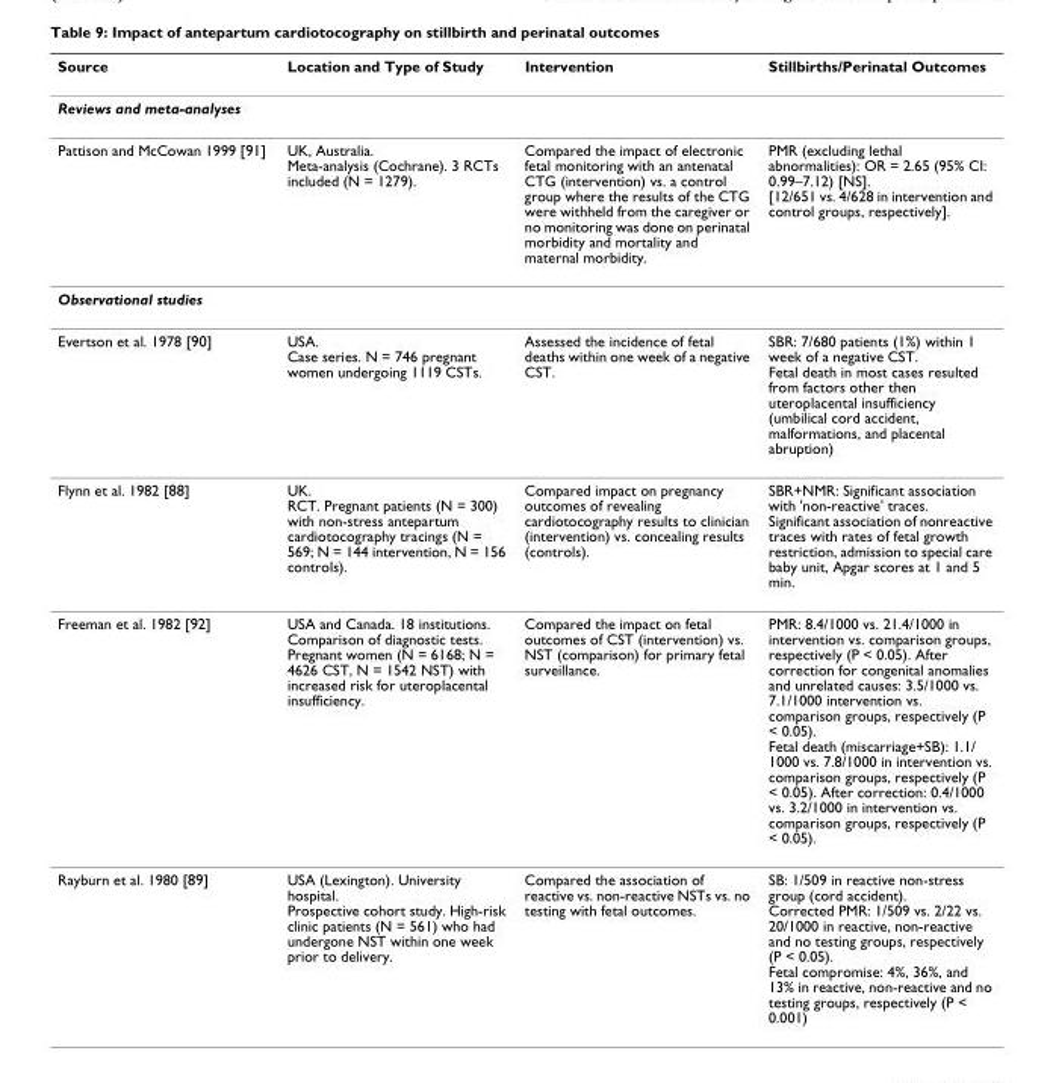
<table><thead><tr><td>Source</td><td>Location and Type of Study</td><td>Intervention</td><td>Stillbirths/Perinatal Outcomes</td></tr></thead><tbody><tr><td colspan="4">Reviews and meta-analyses</td></tr><tr><td>Pattison and McCowan 1999 [91]</td><td>UK, Australia. Meta-analysis (Cochrane). 3 RCTs included (N = 1279).</td><td>Compared the impact of electronic fetal monitoring with an antenatal CTG (intervention) vs. a control group where the results of the CTG were withheld from the caregiver or no monitoring was done on perinatal morbidity and mortality and maternal morbidity.</td><td>PMR (excluding lethal abnormalities): OR = 2.65 (95% CI: 0.99–7.12) [NS]. [12/651 vs. 4/628 in intervention and control groups, respectively].</td></tr><tr><td colspan="4">Observational studies</td></tr><tr><td>Evertson et al. 1978 [90]</td><td>USA. Case series. N = 746 pregnant women undergoing 1119 CSTs.</td><td>Assessed the incidence of fetal deaths within one week of a negative CST.</td><td>SBR: 7/680 patients (1%) within 1 week of a negative CST. Fetal death in most cases resulted from factors other then uteroplacental insufficiency (umbilical cord accident, malformations, and placental abruption)</td></tr><tr><td>Flynn et al. 1982 [88]</td><td>UK. RCT. Pregnant patients (N = 300) with non-stress antepartum cardiotocography tracings (N = 569; N = 144 intervention, N = 156 controls).</td><td>Compared impact on pregnancy outcomes of revealing cardiotocography results to clinician (intervention) vs. concealing results (controls).</td><td>SBR+NMR: Significant association with &#x27;non-reactive&#x27; traces. Significant association of nonreactive traces with rates of fetal growth restriction, admission to special care baby unit, Apgar scores at 1 and 5 min.</td></tr><tr><td>Freeman et al. 1982 [92]</td><td>USA and Canada. 18 institutions. Comparison of diagnostic tests. Pregnant women (N = 6168; N = 4626 CST, N = 1542 NST) with increased risk for uteroplacental insufficiency.</td><td>Compared the impact on fetal outcomes of CST (intervention) vs. NST (comparison) for primary fetal surveillance.</td><td>PMR: 8.4/1000 vs. 21.4/1000 in intervention vs. comparison groups, respectively (P &lt; 0.05). After correction for congenital anomalies and unrelated causes: 3.5/1000 vs. 7.1/1000 intervention vs. comparison groups, respectively (P &lt; 0.05). Fetal death (miscarriage+SB): 1.1/ 1000 vs. 7.8/1000 in intervention vs. comparison groups, respectively (P &lt; 0.05). After correction: 0.4/1000 vs. 3.2/1000 in intervention vs. comparison groups, respectively (P &lt; 0.05).</td></tr><tr><td>Rayburn et al. 1980 [89]</td><td>USA (Lexington). University hospital. Prospective cohort study. High-risk clinic patients (N = 561) who had undergone NST within one week prior to delivery.</td><td>Compared the association of reactive vs. non-reactive NSTs vs. no testing with fetal outcomes.</td><td>SB: 1/509 in reactive non-stress group (cord accident). Corrected PMR: 1/509 vs. 2/22 vs. 20/1000 in reactive, non-reactive and no testing groups, respectively (P &lt; 0.05). Fetal compromise: 4%, 36%, and 13% in reactive, non-reactive and no testing groups, respectively (P &lt; 0.001)</td></tr></tbody></table>